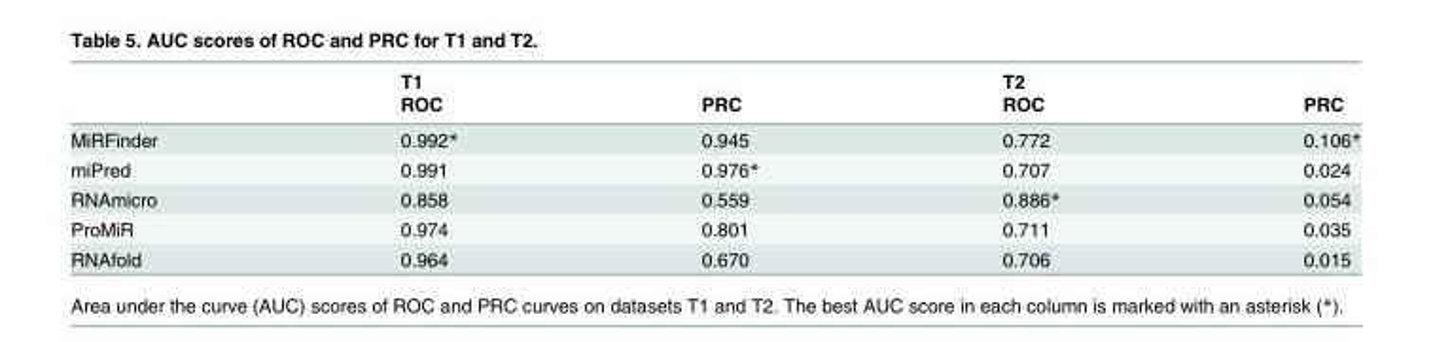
<table><thead><tr><td rowspan="2"></td><td rowspan="2">T1 ROC</td><td rowspan="2">PRC</td><td rowspan="2">T2 ROC</td><td rowspan="2">PRC</td></tr><tr></tr></thead><tbody><tr><td>MiRFinder</td><td>0.992*</td><td>0.945</td><td>0.772</td><td>0.106*</td></tr><tr><td>miPred</td><td>0.991</td><td>0.976*</td><td>0.707</td><td>0.024</td></tr><tr><td>RNAmicro</td><td>0.858</td><td>0.559</td><td>0.886*</td><td>0.054</td></tr><tr><td>ProMiR</td><td>0.974</td><td>0.801</td><td>0.711</td><td>0.035</td></tr><tr><td>RNAfold</td><td>0.964</td><td>0.670</td><td>0.706</td><td>0.015</td></tr></tbody></table>